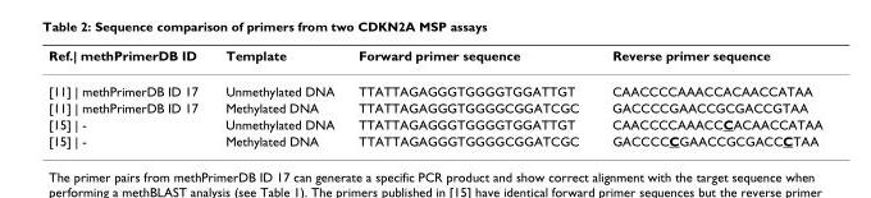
<table><thead><tr><td>Ref.| methPrimerDB ID</td><td>Template</td><td>Forward primer sequence</td><td>Reverse primer sequence</td></tr></thead><tbody><tr><td>[11] | methPrimerDB ID 17</td><td>Unmethylated DNA</td><td>TTATTAGAGGGTGGGGTGGATTGT</td><td>CAACCCCAAACCACAACCATAA</td></tr><tr><td>[11] | methPrimerDB ID 17</td><td>Methylated DNA</td><td>TTATTAGAGGGTGGGGCGGATCGC</td><td>GACCCCGAACCGCGACCGTAA</td></tr><tr><td>[15] | -</td><td>Unmethylated DNA</td><td>TTATTAGAGGGTGGGGTGGATTGT</td><td>CAACCCCAAACCCACAACCATAA</td></tr><tr><td>[15] | -</td><td>Methylated DNA</td><td>TTATTAGAGGGTGGGGCGGATCGC</td><td>GACCCCCGAACCGCGACCCTAA</td></tr></tbody></table>